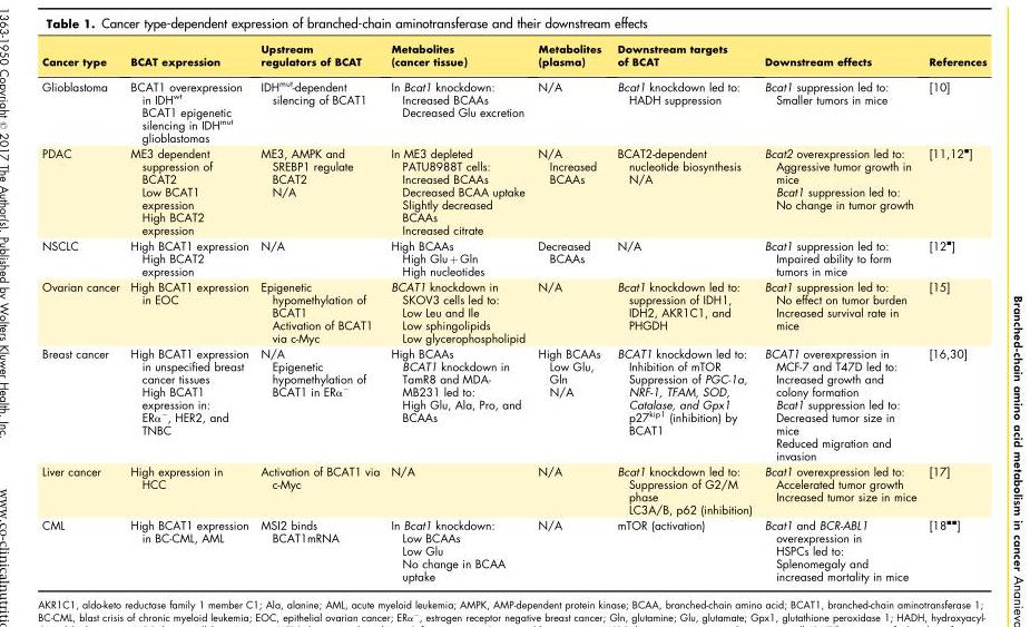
<table><thead><tr><td>Cancer type</td><td>BCAT expression</td><td>Upstream regulators of BCAT</td><td>Metabolites (cancer tissue)</td><td>Metabolites (plasma)</td><td>Downstream targets of BCAT</td><td>Downstream effects</td><td>References</td></tr></thead><tbody><tr><td>Glioblastoma</td><td>BCAT1 overexpression in IDH<sup>wt</sup> BCAT1 epigenetic silencing in IDH<sup>mut</sup> glioblastomas</td><td>IDH<sup>mut</sup>-dependent silencing of BCAT1</td><td>In Bcat1 knockdown: Increased BCAAs Decreased Glu excretion</td><td>N/A</td><td>Bcat1 knockdown led to: HADH suppression</td><td>Bcat1 suppression led to: Smaller tumors in mice</td><td>[10]</td></tr><tr><td>PDAC</td><td>ME3 dependent suppression of BCAT2 Low BCAT1 expression High BCAT2 expression</td><td>ME3, AMPK and SREBP1 regulate BCAT2 N/A</td><td>In ME3 depleted PATU8988T cells: Increased BCAAs Decreased BCAA uptake Slightly decreased BCAAs Increased citrate</td><td>N/A Increased BCAAs</td><td>BCAT2-dependent nucleotide biosynthesis N/A</td><td>Bcat2 overexpression led to: Aggressive tumor growth in mice Bcat1 suppression led to: No change in tumor growth</td><td>[11,12 <sup>▪</sup>]</td></tr><tr><td>NSCLC</td><td>High BCAT1 expression High BCAT2 expression</td><td>N/A</td><td>High BCAAs High Glu + Gln High nucleotides</td><td>Decreased BCAAs</td><td>N/A</td><td>Bcat1 suppression led to: Impaired ability to form tumors in mice</td><td>[12 <sup>▪</sup>]</td></tr><tr><td>Ovarian cancer</td><td>High BCAT1 expression in EOC</td><td>Epigenetic hypomethylation of BCAT1 Activation of BCAT1 via c-Myc</td><td>BCAT1 knockdown in SKOV3 cells led to: Low Leu and Ile Low sphingolipids Low glycerophospholipid</td><td>N/A</td><td>Bcat1 knockdown led to: suppression of IDH1, IDH2, AKR1C1, and PHGDH</td><td>Bcat1 suppression led to: No effect on tumor burden Increased survival rate in mice</td><td>[15]</td></tr><tr><td>Breast cancer</td><td>High BCAT1 expression in unspecified breast cancer tissues High BCAT1 expression in: ERα<sup>−</sup>, HER2, and TNBC</td><td>N/A Epigenetic hypomethylation of BCAT1 in ERα<sup>−</sup></td><td>High BCAAs BCAT1 knockdown in TamR8 and MDA- MB231 led to: High Glu, Ala, Pro, and BCAAs</td><td>High BCAAs Low Glu, Gln N/A</td><td>BCAT1 knockdown led to: Inhibition of mTOR Suppression of PGC-1a, NRF-1, TFAM, SOD, Catalase, and Gpx1 p27<sup>kip1</sup> (inhibition) by BCAT1</td><td>BCAT1 overexpression in MCF-7 and T47D led to: Increased growth and colony formation Bcat1 suppression led to: Decreased tumor size in mice Reduced migration and invasion</td><td>[16,30]</td></tr><tr><td>Liver cancer</td><td>High expression in HCC</td><td>Activation of BCAT1 via c-Myc</td><td>N/A</td><td>N/A</td><td>Bcat1 knockdown led to: Suppression of G2/M phase LC3A/B, p62 (inhibition)</td><td>Bcat1 overexpression led to: Accelerated tumor growth Increased tumor size in mice</td><td>[17]</td></tr><tr><td>CML</td><td>High BCAT1 expression in BC-CML, AML</td><td>MSI2 binds BCAT1mRNA</td><td>In Bcat1 knockdown: Low BCAAs Low Glu No change in BCAA uptake</td><td>N/A</td><td>mTOR (activation)</td><td>Bcat1 and BCR-ABL1 overexpression in HSPCs led to: Splenomegaly and increased mortality in mice</td><td>[18 <sup>▪▪</sup>]</td></tr></tbody></table>